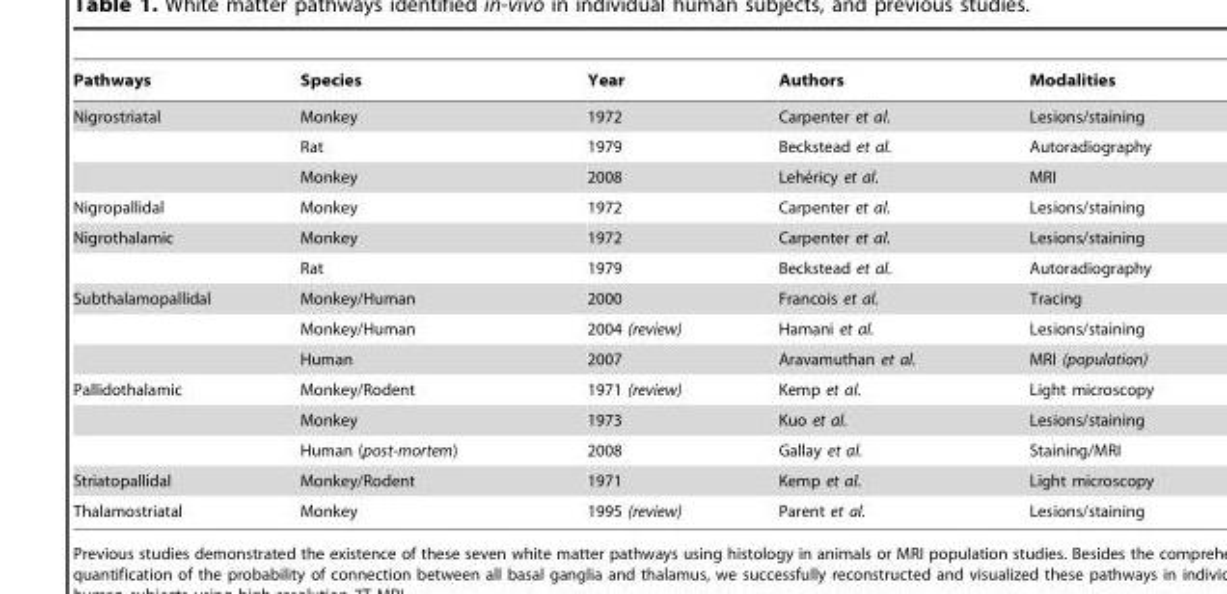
<table><thead><tr><td>Pathways</td><td>Species</td><td>Year</td><td>Authors</td><td>Modalities</td></tr></thead><tbody><tr><td rowspan="3">Nigrostriatal</td><td>Monkey</td><td>1972</td><td>Carpenter et al.</td><td>Lesions/staining</td></tr><tr><td>Rat</td><td>1979</td><td>Beckstead et al.</td><td>Autoradiography</td></tr><tr><td>Monkey</td><td>2008</td><td>Lehe´ricy et al.</td><td>MRI</td></tr><tr><td>Nigropallidal</td><td>Monkey</td><td>1972</td><td>Carpenter et al.</td><td>Lesions/staining</td></tr><tr><td rowspan="2">Nigrothalamic</td><td>Monkey</td><td>1972</td><td>Carpenter et al.</td><td>Lesions/staining</td></tr><tr><td>Rat</td><td>1979</td><td>Beckstead et al.</td><td>Autoradiography</td></tr><tr><td rowspan="3">Subthalamopallidal</td><td>Monkey/Human</td><td>2000</td><td>Francois et al.</td><td>Tracing</td></tr><tr><td>Monkey/Human</td><td>2004 (review)</td><td>Hamani et al.</td><td>Lesions/staining</td></tr><tr><td>Human</td><td>2007</td><td>Aravamuthan et al.</td><td>MRI (population)</td></tr><tr><td rowspan="3">Pallidothalamic</td><td>Monkey/Rodent</td><td>1971 (review)</td><td>Kemp et al.</td><td>Light microscopy</td></tr><tr><td>Monkey</td><td>1973</td><td>Kuo et al.</td><td>Lesions/staining</td></tr><tr><td>Human (post-mortem)</td><td>2008</td><td>Gallay et al.</td><td>Staining/MRI</td></tr><tr><td>Striatopallidal</td><td>Monkey/Rodent</td><td>1971</td><td>Kemp et al.</td><td>Light microscopy</td></tr><tr><td>Thalamostriatal</td><td>Monkey</td><td>1995 (review)</td><td>Parent et al.</td><td>Lesions/staining</td></tr></tbody></table>